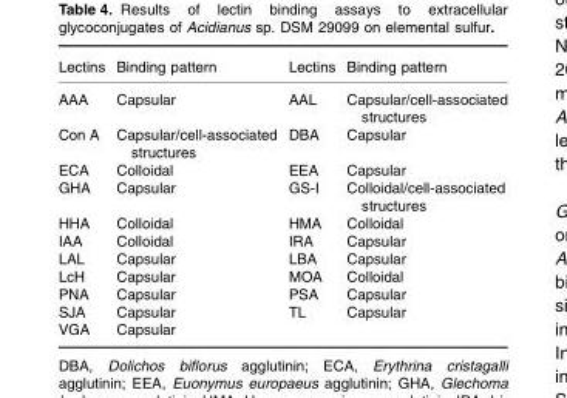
<table><thead><tr><td>Lectins</td><td>Binding pattern</td><td>Lectins</td><td>Binding pattern</td></tr></thead><tbody><tr><td>AAA</td><td>Capsular</td><td>AAL</td><td>Capsular/cell-associated structures</td></tr><tr><td>Con A</td><td>Capsular/cell-associated structures</td><td>DBA</td><td>Capsular</td></tr><tr><td>ECA</td><td>Colloidal</td><td>EEA</td><td>Capsular</td></tr><tr><td>GHA</td><td>Capsular</td><td>GS-I</td><td>Colloidal/cell-associated structures</td></tr><tr><td>HHA</td><td>Colloidal</td><td>HMA</td><td>Colloidal</td></tr><tr><td>IAA</td><td>Colloidal</td><td>IRA</td><td>Capsular</td></tr><tr><td>LAL</td><td>Capsular</td><td>LBA</td><td>Capsular</td></tr><tr><td>LcH</td><td>Capsular</td><td>MOA</td><td>Colloidal</td></tr><tr><td>PNA</td><td>Capsular</td><td>PSA</td><td>Capsular</td></tr><tr><td>SJA</td><td>Capsular</td><td>TL</td><td>Capsular</td></tr><tr><td>VGA</td><td>Capsular</td><td></td><td></td></tr></tbody></table>